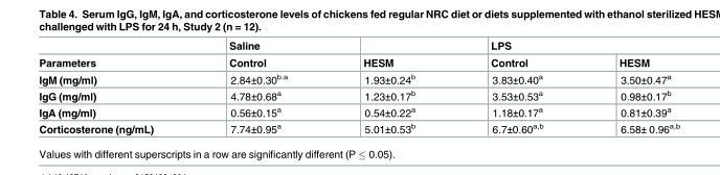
<table><thead><tr><td rowspan="2">Parameters</td><td rowspan="2">Saline Control</td><td rowspan="2">HESM</td><td colspan="2">LPS</td></tr><tr><td>Control</td><td>HESM</td></tr></thead><tbody><tr><td>IgM (mg/ml)</td><td>2.84±0.30<sup>b.a</sup></td><td>1.93±0.24<sup>b</sup></td><td>3.83±0.40<sup>a</sup></td><td>3.50±0.47<sup>a</sup></td></tr><tr><td>IgG (mg/ml)</td><td>4.78±0.68<sup>a</sup></td><td>1.23±0.17<sup>b</sup></td><td>3.53±0.53<sup>a</sup></td><td>0.98±0.17<sup>b</sup></td></tr><tr><td>IgA (mg/ml)</td><td>0.56±0.15<sup>a</sup></td><td>0.54±0.22<sup>a</sup></td><td>1.18±0.17<sup>a</sup></td><td>0.81±0.39<sup>a</sup></td></tr><tr><td>Corticosterone (ng/mL)</td><td>7.74±0.95<sup>a</sup></td><td>5.01±0.53<sup>b</sup></td><td>6.7±0.60<sup>a,b</sup></td><td>6.58± 0.96<sup>a,b</sup></td></tr></tbody></table>